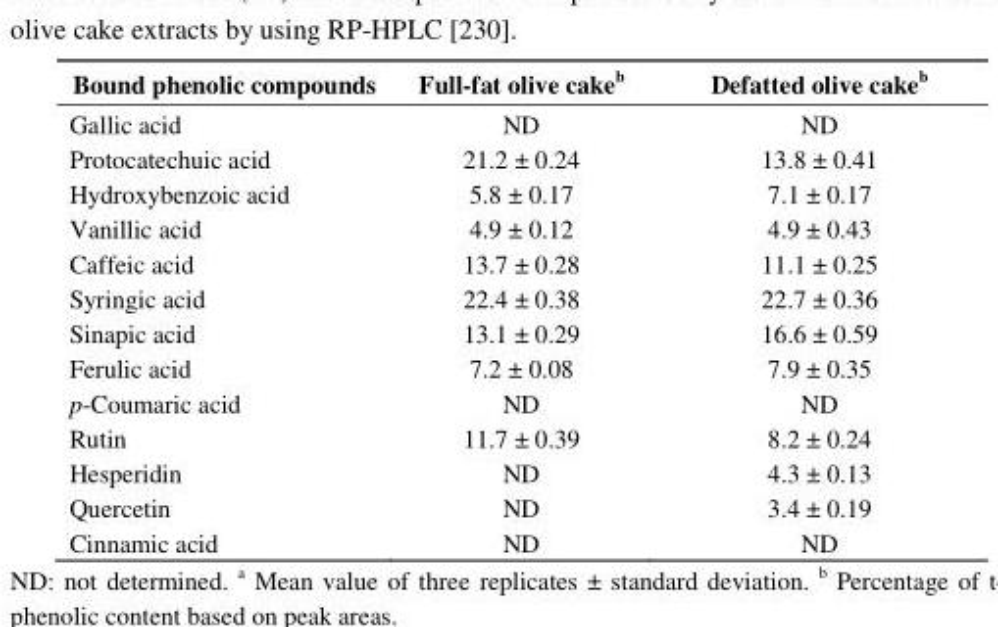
<table><thead><tr><td>Bound phenolic compounds</td><td>Full-fat olive cake<sup>b</sup></td><td>Defatted olive cake<sup>b</sup></td></tr></thead><tbody><tr><td>Gallic acid</td><td>ND</td><td>ND</td></tr><tr><td>Protocatechuic acid</td><td>21.2 ± 0.24</td><td>13.8 ± 0.41</td></tr><tr><td>Hydroxybenzoic acid</td><td>5.8 ± 0.17</td><td>7.1 ± 0.17</td></tr><tr><td>Vanillic acid</td><td>4.9 ± 0.12</td><td>4.9 ± 0.43</td></tr><tr><td>Caffeic acid</td><td>13.7 ± 0.28</td><td>11.1 ± 0.25</td></tr><tr><td>Syringic acid</td><td>22.4 ± 0.38</td><td>22.7 ± 0.36</td></tr><tr><td>Sinapic acid</td><td>13.1 ± 0.29</td><td>16.6 ± 0.59</td></tr><tr><td>Ferulic acid</td><td>7.2 ± 0.08</td><td>7.9 ± 0.35</td></tr><tr><td>p-Coumaric acid</td><td>ND</td><td>ND</td></tr><tr><td>Rutin</td><td>11.7 ± 0.39</td><td>8.2 ± 0.24</td></tr><tr><td>Hesperidin</td><td>ND</td><td>4.3 ± 0.13</td></tr><tr><td>Quercetin</td><td>ND</td><td>3.4 ± 0.19</td></tr><tr><td>Cinnamic acid</td><td>ND</td><td>ND</td></tr></tbody></table>